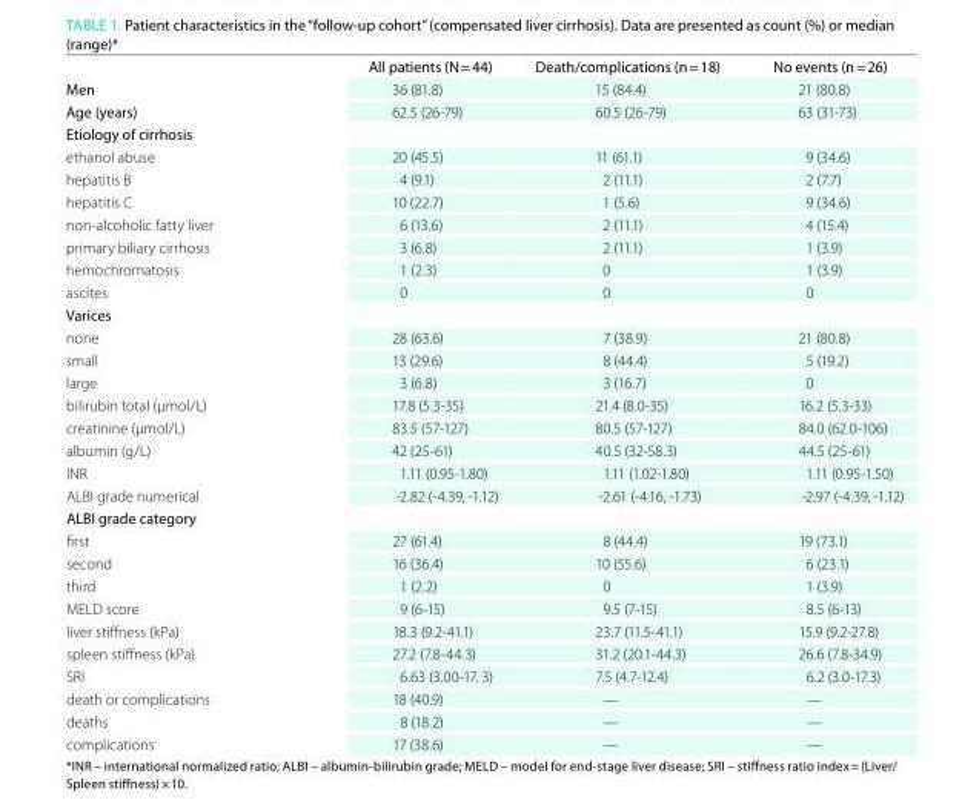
<table><thead><tr><td></td><td>all patients (n = 44)</td><td>death/complications (n = 18)</td><td>no events (n = 26)</td></tr></thead><tbody><tr><td>Men</td><td>36 (81.8)</td><td>15 (84.4)</td><td>21 (80.8)</td></tr><tr><td>age (years)</td><td>62.5 (26-79)</td><td>60.5 (26-79)</td><td>63 (31-73)</td></tr><tr><td colspan="4">etiology of cirrhosis</td></tr><tr><td>ethanol abuse</td><td>20 (45.5)</td><td>11 (61.1)</td><td>9 (34.6)</td></tr><tr><td>hepatitis B</td><td>4 (9.1)</td><td>2 (11.1)</td><td>2 (7.7)</td></tr><tr><td>hepatitis C</td><td>10 (22.7)</td><td>1 (5.6)</td><td>9 (34.6)</td></tr><tr><td>non-alcoholic fatty liver</td><td>6 (13.6)</td><td>2 (11.1)</td><td>4 (15.4)</td></tr><tr><td>primary biliary cirrhosis</td><td>3 (6.8)</td><td>2 (11.1)</td><td>1 (3.9)</td></tr><tr><td>hemochromatosis</td><td>1 (2.3)</td><td>0</td><td>1 (3.9)</td></tr><tr><td>ascites</td><td>0</td><td>0</td><td>0</td></tr><tr><td colspan="4">Varices</td></tr><tr><td>none</td><td>28 (63.6)</td><td>7 (38.9)</td><td>21 (80.8)</td></tr><tr><td>small</td><td>13 (29.6)</td><td>8 (44.4)</td><td>5 (19.2)</td></tr><tr><td>large</td><td>3 (6.8)</td><td>3 (16.7)</td><td>0</td></tr><tr><td>bilirubin total (μmol/L)</td><td>17.8 (5.3-35)</td><td>21.4 (8.0-35)</td><td>16.2 (5.3-33)</td></tr><tr><td>creatinine (μmol/L)</td><td>83.5 (57-127)</td><td>80.5 (57-127)</td><td>84.0 (62.0-106)</td></tr><tr><td>albumin (g/L)</td><td>42 (25-61)</td><td>40.5 (32-58.3)</td><td>44.5 (25-61)</td></tr><tr><td>INR</td><td>1.11 (0.95-1.80)</td><td>1.11 (1.02-1.80)</td><td>1.11 (0.95-1.50)</td></tr><tr><td>ALBI grade numerical</td><td>-2.82 (-4.39, -1.12)</td><td>-2.61 (-4.16, -1.73)</td><td>-2.97 (-4.39, -1.12)</td></tr><tr><td colspan="4">aLBI grade category</td></tr><tr><td>first</td><td>27 (61.4)</td><td>8 (44.4)</td><td>19 (73.1)</td></tr><tr><td>second</td><td>16 (36.4)</td><td>10 (55.6)</td><td>6 (23.1)</td></tr><tr><td>third</td><td>1 (2.2)</td><td>0</td><td>1 (3.9)</td></tr><tr><td>MELD score</td><td>9 (6-15)</td><td>9.5 (7-15)</td><td>8.5 (6-13)</td></tr><tr><td>liver stiffness (kPa)</td><td>18.3 (9.2-41.1)</td><td>23.7 (11.5-41.1)</td><td>15.9 (9.2-27.8)</td></tr><tr><td>spleen stiffness (kPa)</td><td>27.2 (7.8-44.3)</td><td>31.2 (20.1-44.3)</td><td>26.6 (7.8-34.9)</td></tr><tr><td>SRI</td><td>6.63 (3.00-17. 3)</td><td>7.5 (4.7-12.4)</td><td>6.2 (3.0-17.3)</td></tr><tr><td>death or complications</td><td>18 (40.9)</td><td>—</td><td>—</td></tr><tr><td>deaths</td><td>8 (18.2)</td><td>—</td><td>—</td></tr><tr><td>complications</td><td>17 (38.6)</td><td>—</td><td>—</td></tr></tbody></table>